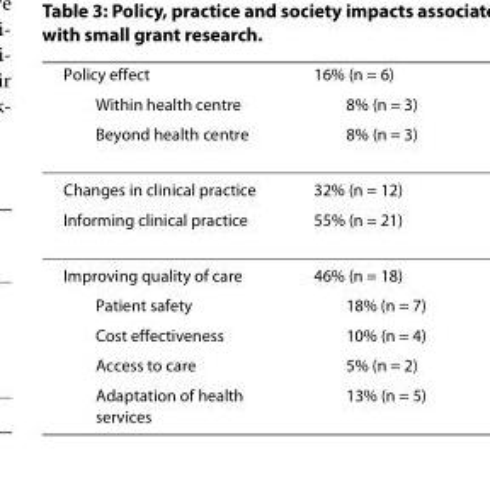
<table><thead><tr><td rowspan="3">Policy effect Within health centre Beyond health centre</td><td rowspan="3">16% (n = 6) 8% (n = 3) 8% (n = 3)</td></tr><tr></tr><tr></tr></thead><tbody><tr><td>Changes in clinical practice</td><td>32% (n = 12)</td></tr><tr><td>Informing clinical practice</td><td>55% (n = 21)</td></tr><tr><td>Improving quality of care</td><td>46% (n = 18)</td></tr><tr><td>Patient safety</td><td>18% (n = 7)</td></tr><tr><td>Cost effectiveness</td><td>10% (n = 4)</td></tr><tr><td>Access to care</td><td>5% (n = 2)</td></tr><tr><td>Adaptation of health services</td><td>13% (n = 5)</td></tr></tbody></table>